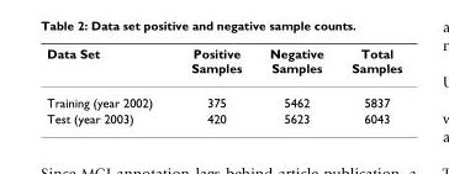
<table><thead><tr><td>Data Set</td><td>Positive Samples</td><td>Negative Samples</td><td>Total Samples</td></tr></thead><tbody><tr><td>Training (year 2002)</td><td>375</td><td>5462</td><td>5837</td></tr><tr><td>Test (year 2003)</td><td>420</td><td>5623</td><td>6043</td></tr></tbody></table>